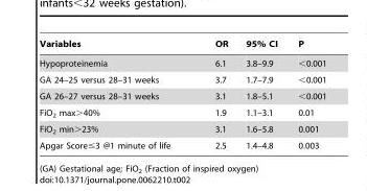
<table><thead><tr><td>Variables</td><td>OR</td><td>95% CI</td><td>P</td></tr></thead><tbody><tr><td>Hypoproteinemia</td><td>6.1</td><td>3.8–9.9</td><td>&lt;0.001</td></tr><tr><td>GA 24–25 versus 28–31 weeks</td><td>3.7</td><td>1.7–7.9</td><td>&lt;0.001</td></tr><tr><td>GA 26–27 versus 28–31 weeks</td><td>3.1</td><td>1.8–5.1</td><td>&lt;0.001</td></tr><tr><td>FiO<sub>2</sub> max&gt;40%</td><td>1.9</td><td>1.1–3.1</td><td>0.01</td></tr><tr><td>FiO<sub>2</sub> min&gt;23%</td><td>3.1</td><td>1.6–5.8</td><td>0.001</td></tr><tr><td>Apgar Score≤3 @1 minute of life</td><td>2.5</td><td>1.4–4.8</td><td>0.003</td></tr></tbody></table>